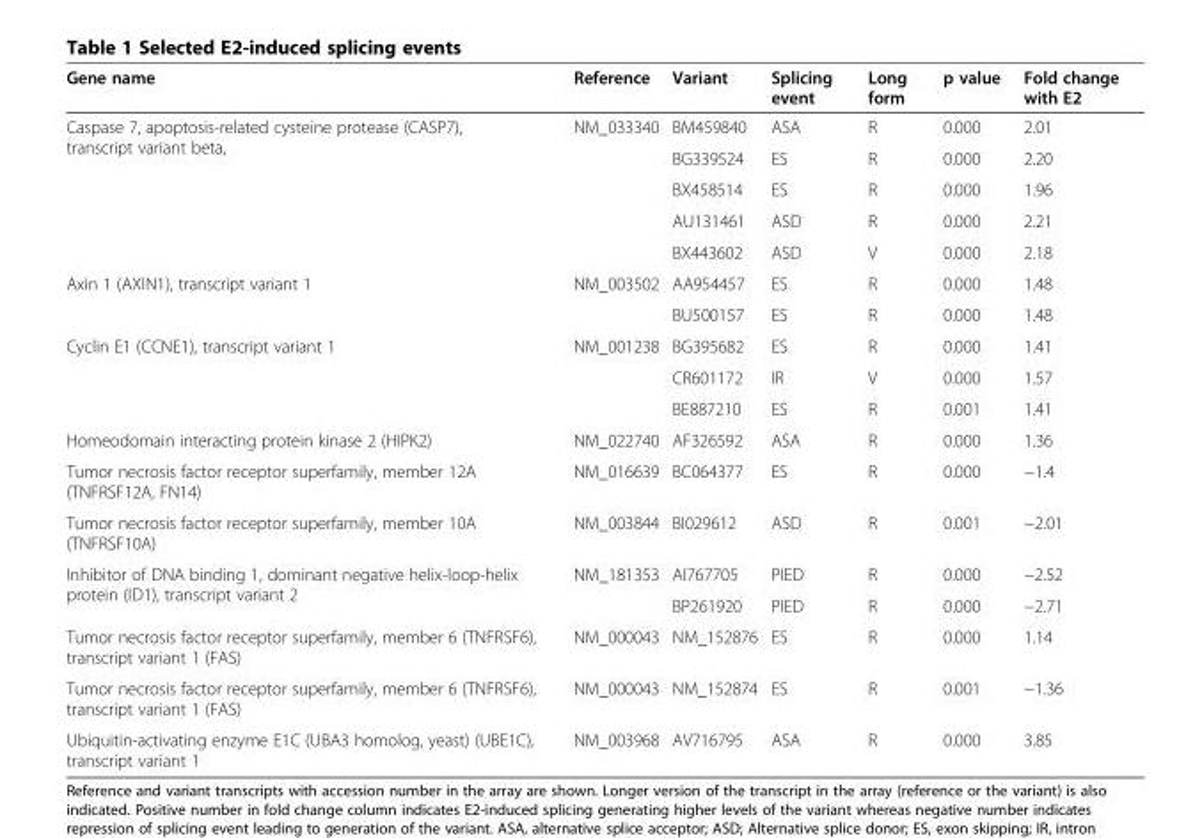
<table><thead><tr><td>Gene name</td><td>Reference</td><td>Variant</td><td>Splicing event</td><td>Long form</td><td>p value</td><td>Fold change with E2</td></tr></thead><tbody><tr><td rowspan="5">Caspase 7, apoptosis-related cysteine protease (CASP7), transcript variant beta,</td><td rowspan="5">NM_033340</td><td>BM459840</td><td>ASA</td><td>R</td><td>0.000</td><td>2.01</td></tr><tr><td>BG339524</td><td>ES</td><td>R</td><td>0.000</td><td>2.20</td></tr><tr><td>BX458514</td><td>ES</td><td>R</td><td>0.000</td><td>1.96</td></tr><tr><td>AU131461</td><td>ASD</td><td>R</td><td>0.000</td><td>2.21</td></tr><tr><td>BX443602</td><td>ASD</td><td>V</td><td>0.000</td><td>2.18</td></tr><tr><td rowspan="2">Axin 1 (AXIN1), transcript variant 1</td><td rowspan="2">NM_003502</td><td>AA954457</td><td>ES</td><td>R</td><td>0.000</td><td>1.48</td></tr><tr><td>BU500157</td><td>ES</td><td>R</td><td>0.000</td><td>1.48</td></tr><tr><td rowspan="3">Cyclin E1 (CCNE1), transcript variant 1</td><td rowspan="3">NM_001238</td><td>BG395682</td><td>ES</td><td>R</td><td>0.000</td><td>1.41</td></tr><tr><td>CR601172</td><td>IR</td><td>V</td><td>0.000</td><td>1.57</td></tr><tr><td>BE887210</td><td>ES</td><td>R</td><td>0.001</td><td>1.41</td></tr><tr><td>Homeodomain interacting protein kinase 2 (HIPK2)</td><td>NM_022740</td><td>AF326592</td><td>ASA</td><td>R</td><td>0.000</td><td>1.36</td></tr><tr><td>Tumor necrosis factor receptor superfamily, member 12A (TNFRSF12A, FN14)</td><td>NM_016639</td><td>BC064377</td><td>ES</td><td>R</td><td>0.000</td><td>−1.4</td></tr><tr><td>Tumor necrosis factor receptor superfamily, member 10A (TNFRSF10A)</td><td>NM_003844</td><td>BI029612</td><td>ASD</td><td>R</td><td>0.001</td><td>−2.01</td></tr><tr><td rowspan="2">Inhibitor of DNA binding 1, dominant negative helix-loop-helix protein (ID1), transcript variant 2</td><td rowspan="2">NM_181353</td><td>AI767705</td><td>PIED</td><td>R</td><td>0.000</td><td>−2.52</td></tr><tr><td>BP261920</td><td>PIED</td><td>R</td><td>0.000</td><td>−2.71</td></tr><tr><td>Tumor necrosis factor receptor superfamily, member 6 (TNFRSF6), transcript variant 1 (FAS)</td><td>NM_000043</td><td>NM_152876</td><td>ES</td><td>R</td><td>0.000</td><td>1.14</td></tr><tr><td>Tumor necrosis factor receptor superfamily, member 6 (TNFRSF6), transcript variant 1 (FAS)</td><td>NM_000043</td><td>NM_152874</td><td>ES</td><td>R</td><td>0.001</td><td>−1.36</td></tr><tr><td>Ubiquitin-activating enzyme E1C (UBA3 homolog, yeast) (UBE1C), transcript variant 1</td><td>NM_003968</td><td>AV716795</td><td>ASA</td><td>R</td><td>0.000</td><td>3.85</td></tr></tbody></table>